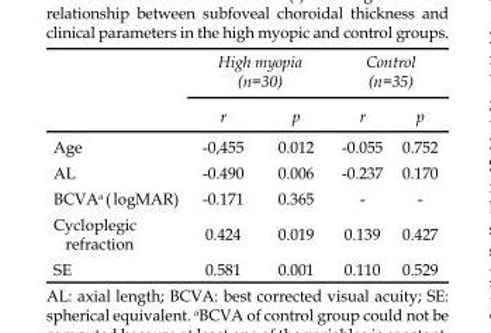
<table><thead><tr><td rowspan="2"></td><td colspan="2">High myopia (n=30)</td><td colspan="2">Control (n=35)</td></tr><tr><td>r</td><td>p</td><td>r</td><td>p</td></tr></thead><tbody><tr><td>Age</td><td>-0,455</td><td>0.012</td><td>-0.055</td><td>0.752</td></tr><tr><td>AL</td><td>-0.490</td><td>0.006</td><td>-0.237</td><td>0.170</td></tr><tr><td>BCVA<sup>a</sup> ( logMAR)</td><td>-0.171</td><td>0.365</td><td>-</td><td>-</td></tr><tr><td>Cycloplegic refraction</td><td>0.424</td><td>0.019</td><td>0.139</td><td>0.427</td></tr><tr><td>SE</td><td>0.581</td><td>0.001</td><td>0.110</td><td>0.529</td></tr></tbody></table>